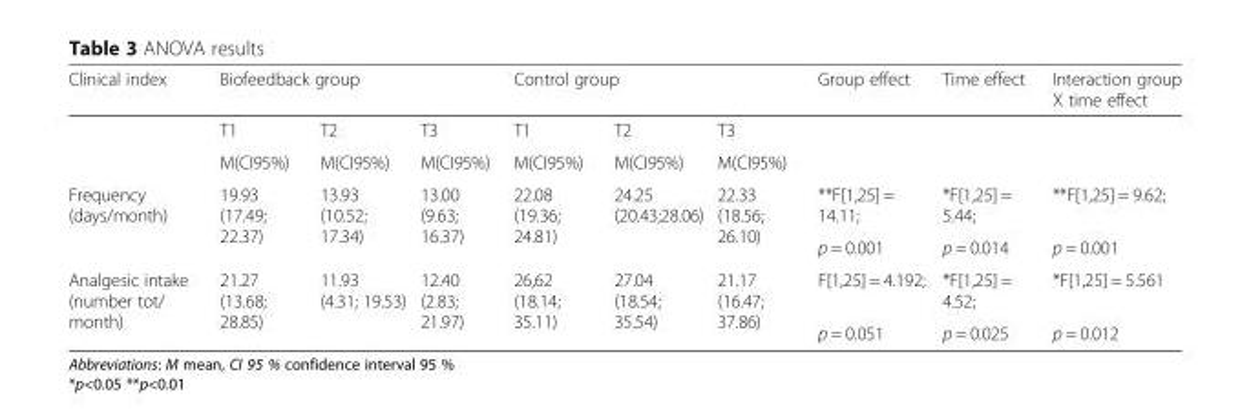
<table><thead><tr><td rowspan="2">Clinical index</td><td colspan="3">Biofeedback group</td><td colspan="3">Control group</td><td rowspan="2">Group effect</td><td rowspan="2">Time effect</td><td rowspan="2">Interaction group X time effect</td></tr><tr><td>T1</td><td>T2</td><td>T3</td><td>T1</td><td>T2</td><td>T3</td></tr></thead><tbody><tr><td></td><td>M(CI95%)</td><td>M(CI95%)</td><td>M(CI95%)</td><td>M(CI95%)</td><td>M(CI95%)</td><td>M(CI95%)</td><td></td><td></td><td></td></tr><tr><td rowspan="2">Frequency (days/month)</td><td rowspan="2">19.93 (17.49; 22.37)</td><td rowspan="2">13.93 (10.52; 17.34)</td><td rowspan="2">13.00 (9.63; 16.37)</td><td rowspan="2">22.08 (19.36; 24.81)</td><td rowspan="2">24.25 (20.43;28.06)</td><td rowspan="2">22.33 (18.56; 26.10)</td><td>**F[1,25] = 14.11;</td><td>*F[1,25] = 5.44;</td><td>**F[1,25] = 9.62;</td></tr><tr><td>p = 0.001</td><td>p = 0.014</td><td>p = 0.001</td></tr><tr><td rowspan="2">Analgesic intake (number tot/ month)</td><td rowspan="2">21.27 (13.68; 28.85)</td><td rowspan="2">11.93 (4.31; 19.53)</td><td rowspan="2">12.40 (2.83; 21.97)</td><td rowspan="2">26,62 (18.14; 35.11)</td><td rowspan="2">27.04 (18.54; 35.54)</td><td rowspan="2">21.17 (16.47; 37.86)</td><td>F[1,25] = 4.192;</td><td>*F[1,25] = 4.52;</td><td>*F[1,25] = 5.561</td></tr><tr><td>p = 0.051</td><td>p = 0.025</td><td>p = 0.012</td></tr></tbody></table>